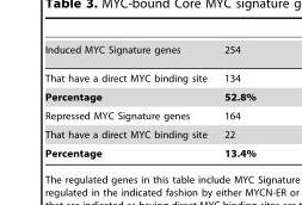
<table><tbody><tr><td>Induced MYC Signature genes</td><td>254</td></tr><tr><td>That have a direct MYC binding site</td><td>134</td></tr><tr><td>Percentage</td><td>52.8%</td></tr><tr><td>Repressed MYC Signature genes</td><td>164</td></tr><tr><td>That have a direct MYC binding site</td><td>22</td></tr><tr><td>Percentage</td><td>13.4%</td></tr></tbody></table>